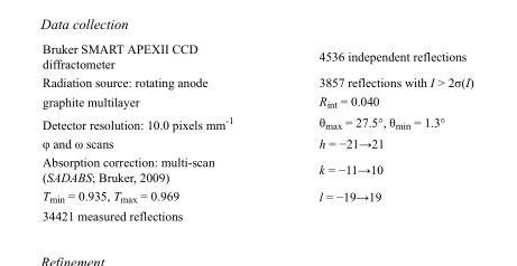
<table><tbody><tr><td>Bruker SMART APEXII CCD diffractometer</td><td>4536 independent reflections</td></tr><tr><td>Radiation source: rotating anode</td><td>3857 reflections with I &gt; 2σ(I)</td></tr><tr><td>graphite multilayer</td><td>R<sub>int</sub> = 0.040</td></tr><tr><td>Detector resolution: 10.0 pixels mm<sup>-1</sup></td><td>θ<sub>max</sub> = 27.5°, θ<sub>min</sub> = 1.3°</td></tr><tr><td>φ and ω scans</td><td>h = −21→21</td></tr><tr><td>Absorption correction: multi-scan (SADABS; Bruker, 2009)</td><td>k = −11→10</td></tr><tr><td>T<sub>min</sub> = 0.935, T<sub>max</sub> = 0.969</td><td>l = −19→19</td></tr><tr><td>34421 measured reflections</td><td></td></tr></tbody></table>